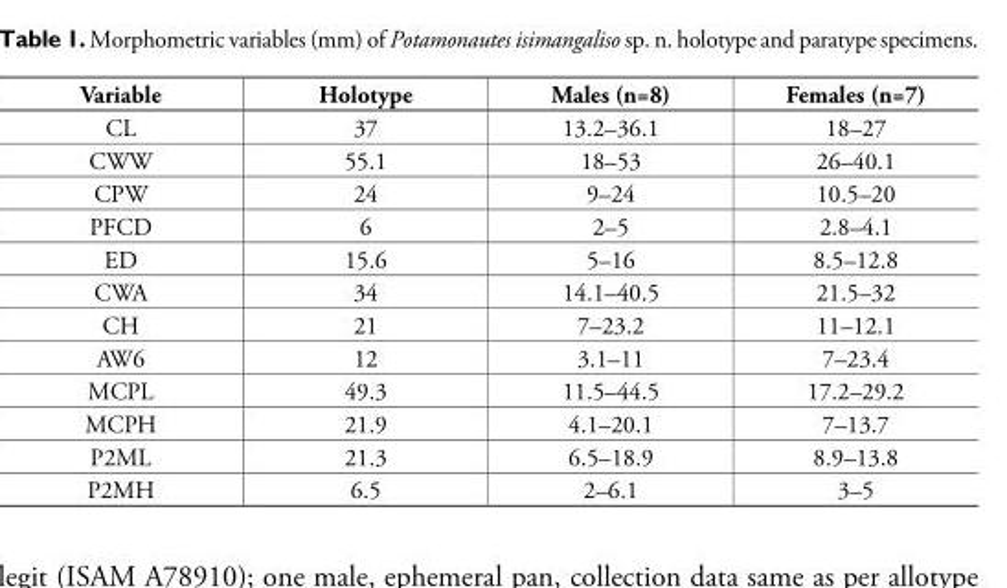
<table><thead><tr><td>Variable</td><td>Holotype</td><td>Males (n=8)</td><td>Females (n=7)</td></tr></thead><tbody><tr><td>CL</td><td>37</td><td>13.2–36.1</td><td>18–27</td></tr><tr><td>CWW</td><td>55.1</td><td>18–53</td><td>26–40.1</td></tr><tr><td>CPW</td><td>24</td><td>9–24</td><td>10.5–20</td></tr><tr><td>PFCD</td><td>6</td><td>2–5</td><td>2.8–4.1</td></tr><tr><td>ED</td><td>15.6</td><td>5–16</td><td>8.5–12.8</td></tr><tr><td>CWA</td><td>34</td><td>14.1–40.5</td><td>21.5–32</td></tr><tr><td>CH</td><td>21</td><td>7–23.2</td><td>11–12.1</td></tr><tr><td>AW6</td><td>12</td><td>3.1–11</td><td>7–23.4</td></tr><tr><td>MCPL</td><td>49.3</td><td>11.5–44.5</td><td>17.2–29.2</td></tr><tr><td>MCPH</td><td>21.9</td><td>4.1–20.1</td><td>7–13.7</td></tr><tr><td>P2ML</td><td>21.3</td><td>6.5–18.9</td><td>8.9–13.8</td></tr><tr><td>P2MH</td><td>6.5</td><td>2–6.1</td><td>3–5</td></tr></tbody></table>